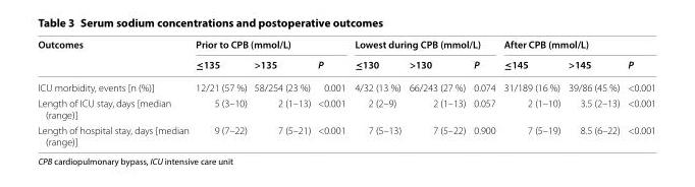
<table><thead><tr><td rowspan="2">Outcomes</td><td colspan="3">Prior to CPB (mmol/L)</td><td colspan="3">Lowest during CPB (mmol/L)</td><td colspan="3">After CPB (mmol/L)</td></tr><tr><td>≤135</td><td>&gt;135</td><td>P</td><td>≤130</td><td>&gt;130</td><td>P</td><td>≤145</td><td>&gt;145</td><td>P</td></tr></thead><tbody><tr><td>ICU morbidity, events [n (%)]</td><td>12/21 (57 %)</td><td>58/254 (23 %)</td><td>0.001</td><td>4/32 (13 %)</td><td>66/243 (27 %)</td><td>0.074</td><td>31/189 (16 %)</td><td>39/86 (45 %)</td><td>&lt;0.001</td></tr><tr><td>Length of ICU stay, days [median (range)]</td><td>5 (3–10)</td><td>2 (1–13)</td><td>&lt;0.001</td><td>2 (2–9)</td><td>2 (1–13)</td><td>0.057</td><td>2 (1–10)</td><td>3.5 (2–13)</td><td>&lt;0.001</td></tr><tr><td>Length of hospital stay, days [median (range)]</td><td>9 (7–22)</td><td>7 (5–21)</td><td>&lt;0.001</td><td>7 (5–13)</td><td>7 (5–22)</td><td>0.900</td><td>7 (5–19)</td><td>8.5 (6–22)</td><td>&lt;0.001</td></tr></tbody></table>